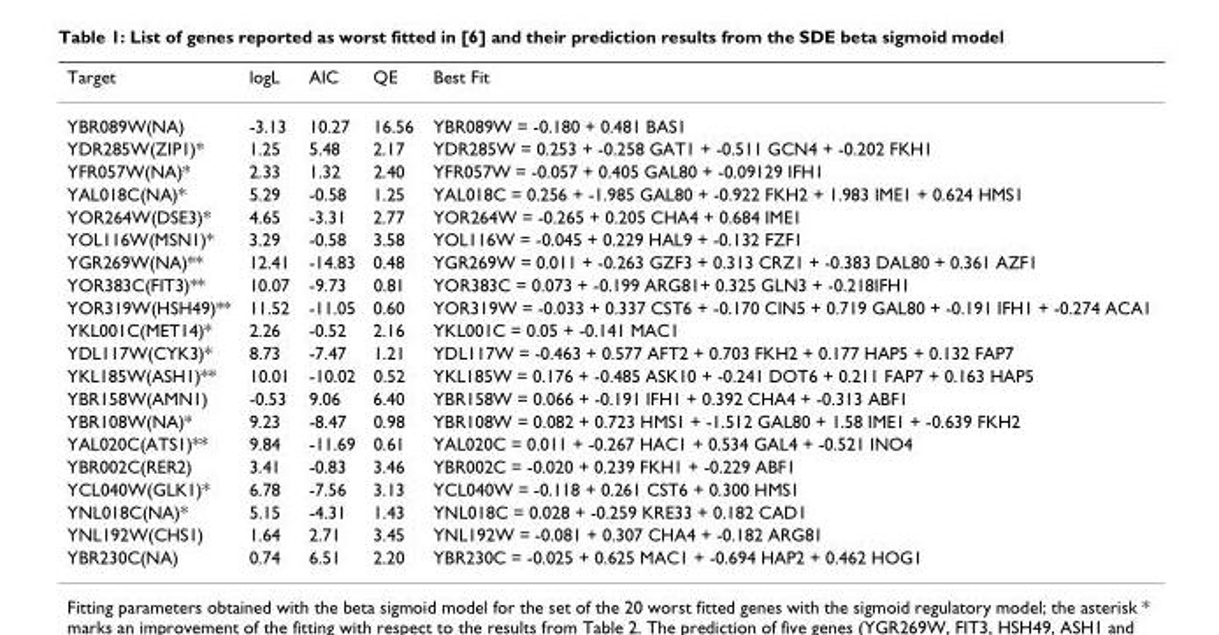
<table><thead><tr><td>Target</td><td>logL</td><td>AIC</td><td>QE</td><td>Best Fit</td></tr></thead><tbody><tr><td>YBR089W(NA)</td><td>-3.13</td><td>10.27</td><td>16.56</td><td>YBR089W = -0.180 + 0.481 BAS1</td></tr><tr><td>YDR285W(ZIP1)*</td><td>1.25</td><td>5.48</td><td>2.17</td><td>YDR285W = 0.253 + -0.258 GAT1 + -0.511 GCN4 + -0.202 FKH1</td></tr><tr><td>YFR057W(NA)*</td><td>2.33</td><td>1.32</td><td>2.40</td><td>YFR057W = -0.057 + 0.405 GAL80 + -0.09129 IFH1</td></tr><tr><td>YAL018C(NA)*</td><td>5.29</td><td>-0.58</td><td>1.25</td><td>YAL018C = 0.256 + -1.985 GAL80 + -0.922 FKH2 + 1.983 IME1 + 0.624 HMS1</td></tr><tr><td>YOR264W(DSE3)*</td><td>4.65</td><td>-3.31</td><td>2.77</td><td>YOR264W = -0.265 + 0.205 CHA4 + 0.684 IME1</td></tr><tr><td>YOL116W(MSN1)*</td><td>3.29</td><td>-0.58</td><td>3.58</td><td>YOL116W = -0.045 + 0.229 HAL9 + -0.132 FZF1</td></tr><tr><td>YGR269W(NA)**</td><td>12.41</td><td>-14.83</td><td>0.48</td><td>YGR269W = 0.011 + -0.263 GZF3 + 0.313 CRZ1 + -0.383 DAL80 + 0.361 AZF1</td></tr><tr><td>YOR383C(FIT3)**</td><td>10.07</td><td>-9.73</td><td>0.81</td><td>YOR383C = 0.073 + -0.199 ARG81+ 0.325 GLN3 + -0.218IFH1</td></tr><tr><td>YOR319W(HSH49)**</td><td>11.52</td><td>-11.05</td><td>0.60</td><td>YOR319W = -0.033 + 0.337 CST6 + -0.170 CIN5 + 0.719 GAL80 + -0.191 IFH1 + -0.274 ACA1</td></tr><tr><td>YKL001C(MET14)*</td><td>2.26</td><td>-0.52</td><td>2.16</td><td>YKL001C = 0.05 + -0.141 MAC1</td></tr><tr><td>YDL117W(CYK3)*</td><td>8.73</td><td>-7.47</td><td>1.21</td><td>YDL117W = -0.463 + 0.577 AFT2 + 0.703 FKH2 + 0.177 HAP5 + 0.132 FAP7</td></tr><tr><td>YKL185W(ASH1)**</td><td>10.01</td><td>-10.02</td><td>0.52</td><td>YKL185W = 0.176 + -0.485 ASK10 + -0.241 DOT6 + 0.211 FAP7 + 0.163 HAP5</td></tr><tr><td>YBR158W(AMN1)</td><td>-0.53</td><td>9.06</td><td>6.40</td><td>YBR158W = 0.066 + -0.191 IFH1 + 0.392 CHA4 + -0.313 ABF1</td></tr><tr><td>YBR108W(NA)*</td><td>9.23</td><td>-8.47</td><td>0.98</td><td>YBR108W = 0.082 + 0.723 HMS1 + -1.512 GAL80 + 1.58 IME1 + -0.639 FKH2</td></tr><tr><td>YAL020C(ATS1)**</td><td>9.84</td><td>-11.69</td><td>0.61</td><td>YAL020C = 0.011 + -0.267 HAC1 + 0.534 GAL4 + -0.521 INO4</td></tr><tr><td>YBR002C(RER2)</td><td>3.41</td><td>-0.83</td><td>3.46</td><td>YBR002C = -0.020 + 0.239 FKH1 + -0.229 ABF1</td></tr><tr><td>YCL040W(GLK1)*</td><td>6.78</td><td>-7.56</td><td>3.13</td><td>YCL040W = -0.118 + 0.261 CST6 + 0.300 HMS1</td></tr><tr><td>YNL018C(NA)*</td><td>5.15</td><td>-4.31</td><td>1.43</td><td>YNL018C = 0.028 + -0.259 KRE33 + 0.182 CAD1</td></tr><tr><td>YNL192W(CHS1)</td><td>1.64</td><td>2.71</td><td>3.45</td><td>YNL192W = -0.081 + 0.307 CHA4 + -0.182 ARG81</td></tr><tr><td>YBR230C(NA)</td><td>0.74</td><td>6.51</td><td>2.20</td><td>YBR230C = -0.025 + 0.625 MAC1 + -0.694 HAP2 + 0.462 HOG1</td></tr></tbody></table>